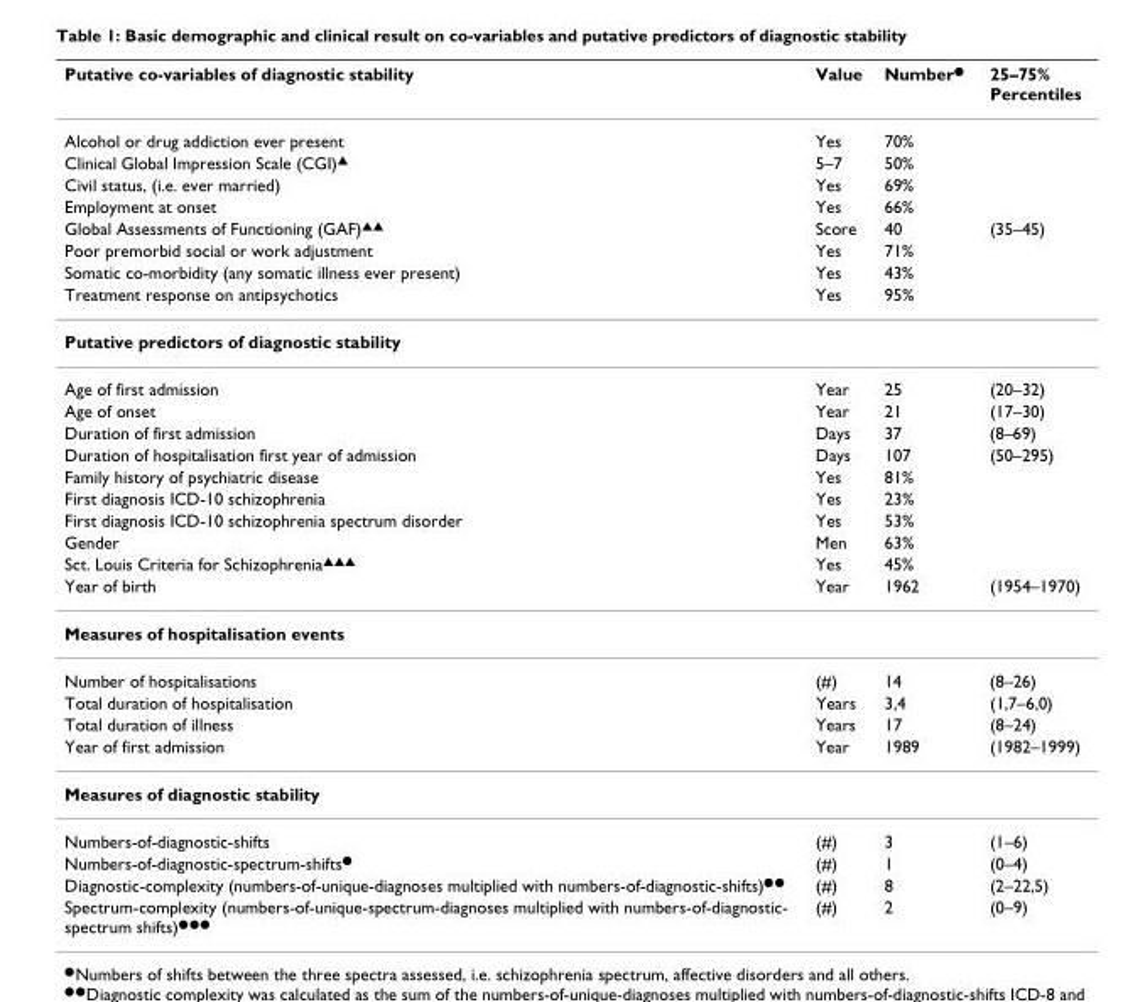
<table><thead><tr><td>Putative co-variables of diagnostic stability</td><td>Value</td><td>Number<sup>●</sup></td><td>25–75% Percentiles</td></tr></thead><tbody><tr><td>Alcohol or drug addiction ever present</td><td>Yes</td><td>70%</td><td></td></tr><tr><td>Clinical Global Impression Scale (CGI)<sup>▲</sup></td><td>5–7</td><td>50%</td><td></td></tr><tr><td>Civil status, (i.e. ever married)</td><td>Yes</td><td>69%</td><td></td></tr><tr><td>Employment at onset</td><td>Yes</td><td>66%</td><td></td></tr><tr><td>Global Assessments of Functioning (GAF)<sup>▲▲</sup></td><td>Score</td><td>40</td><td>(35–45)</td></tr><tr><td>Poor premorbid social or work adjustment</td><td>Yes</td><td>71%</td><td></td></tr><tr><td>Somatic co-morbidity (any somatic illness ever present)</td><td>Yes</td><td>43%</td><td></td></tr><tr><td>Treatment response on antipsychotics</td><td>Yes</td><td>95%</td><td></td></tr><tr><td colspan="4">Putative predictors of diagnostic stability</td></tr><tr><td>Age of first admission</td><td>Year</td><td>25</td><td>(20–32)</td></tr><tr><td>Age of onset</td><td>Year</td><td>21</td><td>(17–30)</td></tr><tr><td>Duration of first admission</td><td>Days</td><td>37</td><td>(8–69)</td></tr><tr><td>Duration of hospitalisation first year of admission</td><td>Days</td><td>107</td><td>(50–295)</td></tr><tr><td>Family history of psychiatric disease</td><td>Yes</td><td>81%</td><td></td></tr><tr><td>First diagnosis ICD-10 schizophrenia</td><td>Yes</td><td>23%</td><td></td></tr><tr><td>First diagnosis ICD-10 schizophrenia spectrum disorder</td><td>Yes</td><td>53%</td><td></td></tr><tr><td>Gender</td><td>Men</td><td>63%</td><td></td></tr><tr><td>Sct. Louis Criteria for Schizophrenia<sup>▲▲▲</sup></td><td>Yes</td><td>45%</td><td></td></tr><tr><td>Year of birth</td><td>Year</td><td>1962</td><td>(1954–1970)</td></tr><tr><td colspan="4">Measures of hospitalisation events</td></tr><tr><td>Number of hospitalisations</td><td>(#)</td><td>14</td><td>(8–26)</td></tr><tr><td>Total duration of hospitalisation</td><td>Years</td><td>3,4</td><td>(1,7–6,0)</td></tr><tr><td>Total duration of illness</td><td>Years</td><td>17</td><td>(8–24)</td></tr><tr><td>Year of first admission</td><td>Year</td><td>1989</td><td>(1982–1999)</td></tr><tr><td colspan="4">Measures of diagnostic stability</td></tr><tr><td>Numbers-of-diagnostic-shifts</td><td>(#)</td><td>3</td><td>(1–6)</td></tr><tr><td>Numbers-of-diagnostic-spectrum-shifts<sup>●</sup></td><td>(#)</td><td>1</td><td>(0–4)</td></tr><tr><td>Diagnostic-complexity (numbers-of-unique-diagnoses multiplied with numbers-of-diagnostic-shifts)<sup>●●</sup></td><td>(#)</td><td>8</td><td>(2–22,5)</td></tr><tr><td>Spectrum-complexity (numbers-of-unique-spectrum-diagnoses multiplied with numbers-of-diagnostic- spectrum shifts)<sup>●●●</sup></td><td>(#)</td><td>2</td><td>(0–9)</td></tr></tbody></table>